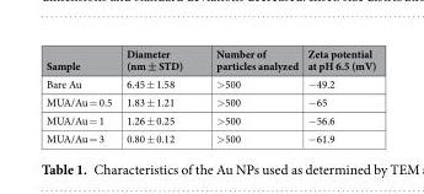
<table><thead><tr><td>Sample</td><td>Diameter (nm ± STD)</td><td>Number of particles analyzed</td><td>Zeta potential at pH 6.5 (mV)</td></tr></thead><tbody><tr><td>Bare Au</td><td>6.45 ± 1.58</td><td>&gt;500</td><td>−49.2</td></tr><tr><td>MUA/Au = 0.5</td><td>1.83 ± 1.21</td><td>&gt;500</td><td>−65</td></tr><tr><td>MUA/Au = 1</td><td>1.26 ± 0.25</td><td>&gt;500</td><td>−56.6</td></tr><tr><td>MUA/Au = 3</td><td>0.80 ± 0.12</td><td>&gt;500</td><td>−61.9</td></tr></tbody></table>